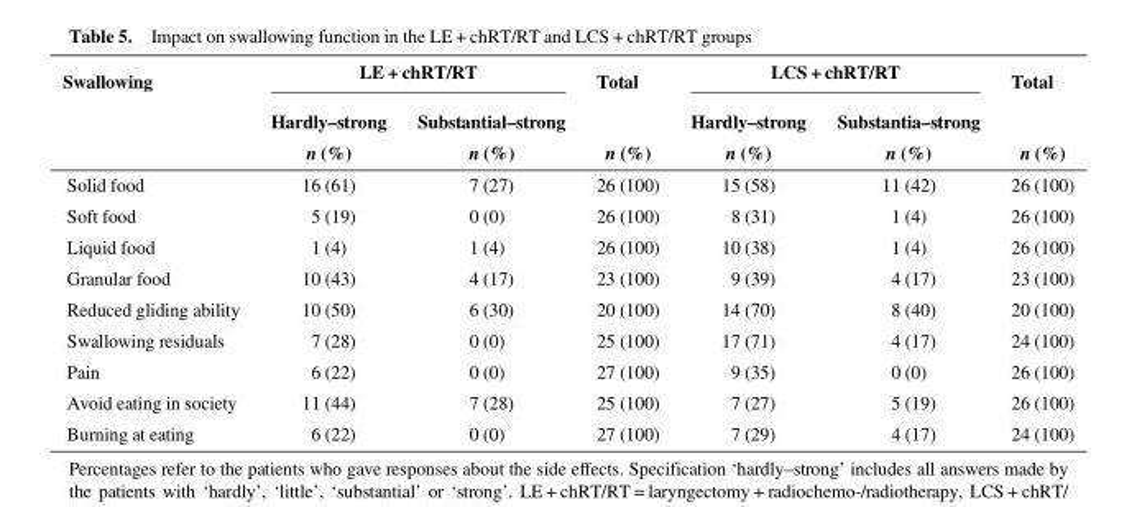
<table><thead><tr><td rowspan="3">Swallowing</td><td colspan="2">LE + chRT/RT</td><td rowspan="3">Total n (%)</td><td colspan="2">LCS + chRT/RT</td><td rowspan="3">Total n (%)</td></tr><tr><td rowspan="2">Hardly–strong n (%)</td><td rowspan="2">Substantial–strong n (%)</td><td rowspan="2">Hardly–strong n (%)</td><td rowspan="2">Substantia–strong n (%)</td></tr><tr></tr></thead><tbody><tr><td>Solid food</td><td>16 (61)</td><td>7 (27)</td><td>26 (100)</td><td>15 (58)</td><td>11 (42)</td><td>26 (100)</td></tr><tr><td>Soft food</td><td>5 (19)</td><td>0 (0)</td><td>26 (100)</td><td>8 (31)</td><td>1 (4)</td><td>26 (100)</td></tr><tr><td>Liquid food</td><td>1 (4)</td><td>1 (4)</td><td>26 (100)</td><td>10 (38)</td><td>1 (4)</td><td>26 (100)</td></tr><tr><td>Granular food</td><td>10 (43)</td><td>4 (17)</td><td>23 (100)</td><td>9 (39)</td><td>4 (17)</td><td>23 (100)</td></tr><tr><td>Reduced gliding ability</td><td>10 (50)</td><td>6 (30)</td><td>20 (100)</td><td>14 (70)</td><td>8 (40)</td><td>20 (100)</td></tr><tr><td>Swallowing residuals</td><td>7 (28)</td><td>0 (0)</td><td>25 (100)</td><td>17 (71)</td><td>4 (17)</td><td>24 (100)</td></tr><tr><td>Pain</td><td>6 (22)</td><td>0 (0)</td><td>27 (100)</td><td>9 (35)</td><td>0 (0)</td><td>26 (100)</td></tr><tr><td>Avoid eating in society</td><td>11 (44)</td><td>7 (28)</td><td>25 (100)</td><td>7 (27)</td><td>5 (19)</td><td>26 (100)</td></tr><tr><td>Burning at eating</td><td>6 (22)</td><td>0 (0)</td><td>27 (100)</td><td>7 (29)</td><td>4 (17)</td><td>24 (100)</td></tr></tbody></table>